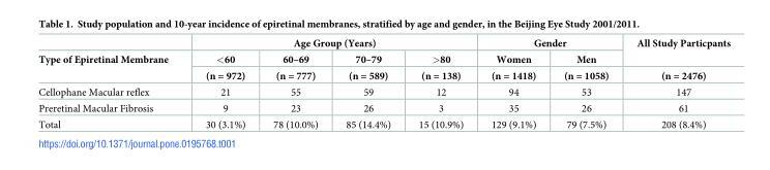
<table><thead><tr><td rowspan="3">Type of Epiretinal Membrane</td><td colspan="4">Age Group (Years)</td><td colspan="2">Gender</td><td rowspan="3">All Study Particpants (n = 2476)</td></tr><tr><td rowspan="2">&lt;60 (n = 972)</td><td rowspan="2">60–69 (n = 777)</td><td rowspan="2">70–79 (n = 589)</td><td rowspan="2">&gt;80 (n = 138)</td><td rowspan="2">Women (n = 1418)</td><td rowspan="2">Men (n = 1058)</td></tr><tr></tr></thead><tbody><tr><td>Cellophane Macular reflex</td><td>21</td><td>55</td><td>59</td><td>12</td><td>94</td><td>53</td><td>147</td></tr><tr><td>Preretinal Macular Fibrosis</td><td>9</td><td>23</td><td>26</td><td>3</td><td>35</td><td>26</td><td>61</td></tr><tr><td>Total</td><td>30 (3.1%)</td><td>78 (10.0%)</td><td>85 (14.4%)</td><td>15 (10.9%)</td><td>129 (9.1%)</td><td>79 (7.5%)</td><td>208 (8.4%)</td></tr></tbody></table>